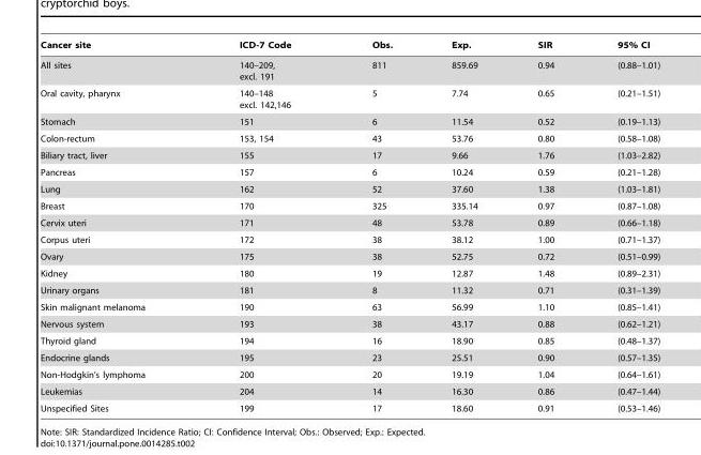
<table><thead><tr><td>Cancer site</td><td>ICD-7 Code</td><td>Obs.</td><td>Exp.</td><td>SIR</td><td>95% CI</td></tr></thead><tbody><tr><td>All sites</td><td>140–209, excl. 191</td><td>811</td><td>859.69</td><td>0.94</td><td>(0.88–1.01)</td></tr><tr><td>Oral cavity, pharynx</td><td>140–148 excl. 142,146</td><td>5</td><td>7.74</td><td>0.65</td><td>(0.21–1.51)</td></tr><tr><td>Stomach</td><td>151</td><td>6</td><td>11.54</td><td>0.52</td><td>(0.19–1.13)</td></tr><tr><td>Colon-rectum</td><td>153, 154</td><td>43</td><td>53.76</td><td>0.80</td><td>(0.58–1.08)</td></tr><tr><td>Biliary tract, liver</td><td>155</td><td>17</td><td>9.66</td><td>1.76</td><td>(1.03–2.82)</td></tr><tr><td>Pancreas</td><td>157</td><td>6</td><td>10.24</td><td>0.59</td><td>(0.21–1.28)</td></tr><tr><td>Lung</td><td>162</td><td>52</td><td>37.60</td><td>1.38</td><td>(1.03–1.81)</td></tr><tr><td>Breast</td><td>170</td><td>325</td><td>335.14</td><td>0.97</td><td>(0.87–1.08)</td></tr><tr><td>Cervix uteri</td><td>171</td><td>48</td><td>53.78</td><td>0.89</td><td>(0.66–1.18)</td></tr><tr><td>Corpus uteri</td><td>172</td><td>38</td><td>38.12</td><td>1.00</td><td>(0.71–1.37)</td></tr><tr><td>Ovary</td><td>175</td><td>38</td><td>52.75</td><td>0.72</td><td>(0.51–0.99)</td></tr><tr><td>Kidney</td><td>180</td><td>19</td><td>12.87</td><td>1.48</td><td>(0.89–2.31)</td></tr><tr><td>Urinary organs</td><td>181</td><td>8</td><td>11.32</td><td>0.71</td><td>(0.31–1.39)</td></tr><tr><td>Skin malignant melanoma</td><td>190</td><td>63</td><td>56.99</td><td>1.10</td><td>(0.85–1.41)</td></tr><tr><td>Nervous system</td><td>193</td><td>38</td><td>43.17</td><td>0.88</td><td>(0.62–1.21)</td></tr><tr><td>Thyroid gland</td><td>194</td><td>16</td><td>18.90</td><td>0.85</td><td>(0.48–1.37)</td></tr><tr><td>Endocrine glands</td><td>195</td><td>23</td><td>25.51</td><td>0.90</td><td>(0.57–1.35)</td></tr><tr><td>Non-Hodgkin’s lymphoma</td><td>200</td><td>20</td><td>19.19</td><td>1.04</td><td>(0.64–1.61)</td></tr><tr><td>Leukemias</td><td>204</td><td>14</td><td>16.30</td><td>0.86</td><td>(0.47–1.44)</td></tr><tr><td>Unspecified Sites</td><td>199</td><td>17</td><td>18.60</td><td>0.91</td><td>(0.53–1.46)</td></tr></tbody></table>